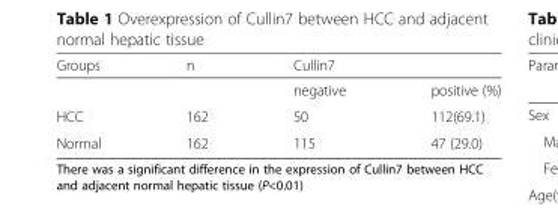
<table><thead><tr><td rowspan="2">Groups</td><td rowspan="2">n</td><td colspan="2">Cullin7</td></tr><tr><td>negative</td><td>positive (%)</td></tr></thead><tbody><tr><td>HCC</td><td>162</td><td>50</td><td>112(69.1)</td></tr><tr><td>Normal</td><td>162</td><td>115</td><td>47 (29.0)</td></tr></tbody></table>